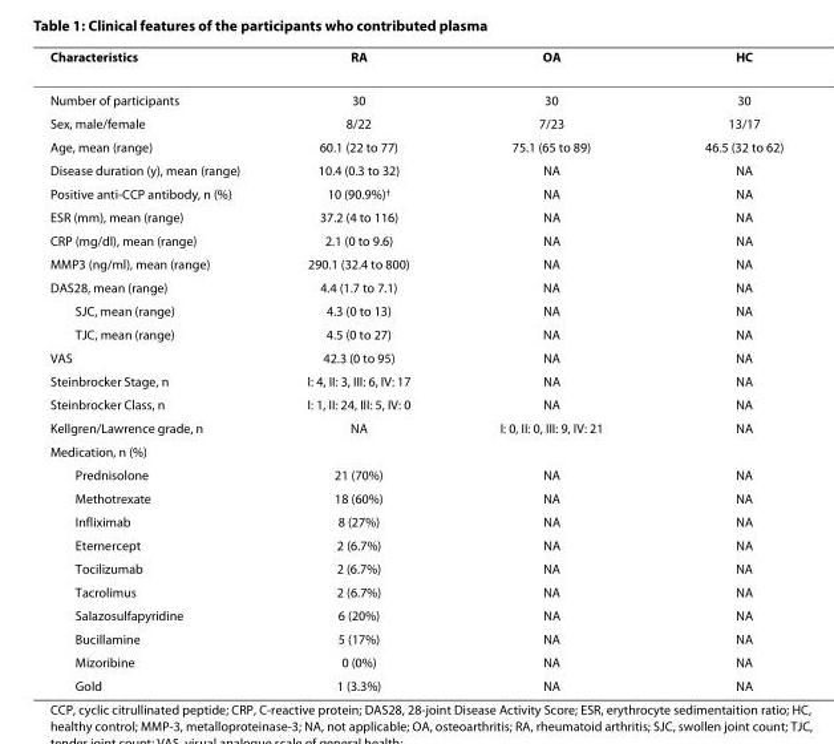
<table><thead><tr><td>Characteristics</td><td>RA</td><td>OA</td><td>HC</td></tr></thead><tbody><tr><td>Number of participants</td><td>30</td><td>30</td><td>30</td></tr><tr><td>Sex, male/female</td><td>8/22</td><td>7/23</td><td>13/17</td></tr><tr><td>Age, mean (range)</td><td>60.1 (22 to 77)</td><td>75.1 (65 to 89)</td><td>46.5 (32 to 62)</td></tr><tr><td>Disease duration (y), mean (range)</td><td>10.4 (0.3 to 32)</td><td>NA</td><td>NA</td></tr><tr><td>Positive anti-CCP antibody, n (%)</td><td>10 (90.9%)<sup>†</sup></td><td>NA</td><td>NA</td></tr><tr><td>ESR (mm), mean (range)</td><td>37.2 (4 to 116)</td><td>NA</td><td>NA</td></tr><tr><td>CRP (mg/dl), mean (range)</td><td>2.1 (0 to 9.6)</td><td>NA</td><td>NA</td></tr><tr><td>MMP3 (ng/ml), mean (range)</td><td>290.1 (32.4 to 800)</td><td>NA</td><td>NA</td></tr><tr><td>DAS28, mean (range)</td><td>4.4 (1.7 to 7.1)</td><td>NA</td><td>NA</td></tr><tr><td>SJC, mean (range)</td><td>4.3 (0 to 13)</td><td>NA</td><td>NA</td></tr><tr><td>TJC, mean (range)</td><td>4.5 (0 to 27)</td><td>NA</td><td>NA</td></tr><tr><td>VAS</td><td>42.3 (0 to 95)</td><td>NA</td><td>NA</td></tr><tr><td>Steinbrocker Stage, n</td><td>I: 4, II: 3, III: 6, IV: 17</td><td>NA</td><td>NA</td></tr><tr><td>Steinbrocker Class, n</td><td>I: 1, II: 24, III: 5, IV: 0</td><td>NA</td><td>NA</td></tr><tr><td>Kellgren/Lawrence grade, n</td><td>NA</td><td>I: 0, II: 0, III: 9, IV: 21</td><td>NA</td></tr><tr><td colspan="4">Medication, n (%)</td></tr><tr><td>Prednisolone</td><td>21 (70%)</td><td>NA</td><td>NA</td></tr><tr><td>Methotrexate</td><td>18 (60%)</td><td>NA</td><td>NA</td></tr><tr><td>Infliximab</td><td>8 (27%)</td><td>NA</td><td>NA</td></tr><tr><td>Eternercept</td><td>2 (6.7%)</td><td>NA</td><td>NA</td></tr><tr><td>Tocilizumab</td><td>2 (6.7%)</td><td>NA</td><td>NA</td></tr><tr><td>Tacrolimus</td><td>2 (6.7%)</td><td>NA</td><td>NA</td></tr><tr><td>Salazosulfapyridine</td><td>6 (20%)</td><td>NA</td><td>NA</td></tr><tr><td>Bucillamine</td><td>5 (17%)</td><td>NA</td><td>NA</td></tr><tr><td>Mizoribine</td><td>0 (0%)</td><td>NA</td><td>NA</td></tr><tr><td>Gold</td><td>1 (3.3%)</td><td>NA</td><td>NA</td></tr></tbody></table>